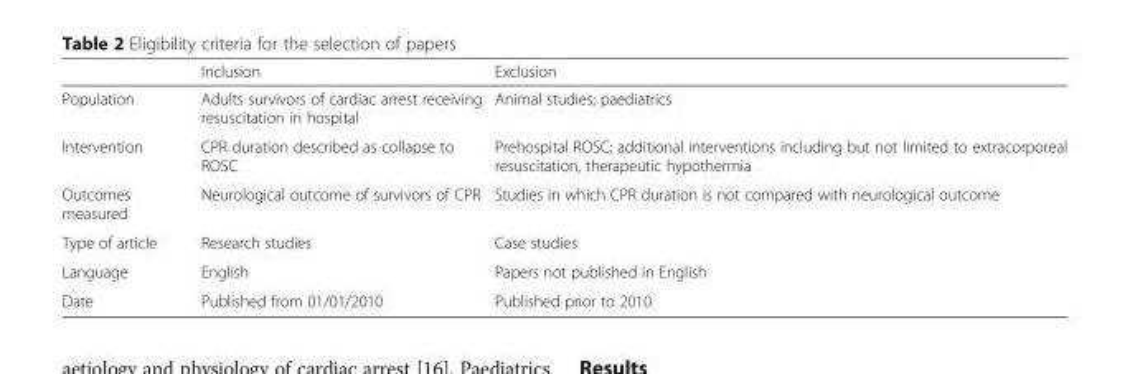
<table><thead><tr><td></td><td>Inclusion</td><td>Exclusion</td></tr></thead><tbody><tr><td>Population</td><td>Adults survivors of cardiac arrest receiving resuscitation in hospital</td><td>Animal studies; paediatrics</td></tr><tr><td>Intervention</td><td>CPR duration described as collapse to ROSC</td><td>Prehospital ROSC; additional interventions including but not limited to extracorporeal resuscitation, therapeutic hypothermia</td></tr><tr><td>Outcomes measured</td><td>Neurological outcome of survivors of CPR</td><td>Studies in which CPR duration is not compared with neurological outcome</td></tr><tr><td>Type of article</td><td>Research studies</td><td>Case studies</td></tr><tr><td>Language</td><td>English</td><td>Papers not published in English</td></tr><tr><td>Date</td><td>Published from 01/01/2010</td><td>Published prior to 2010</td></tr></tbody></table>